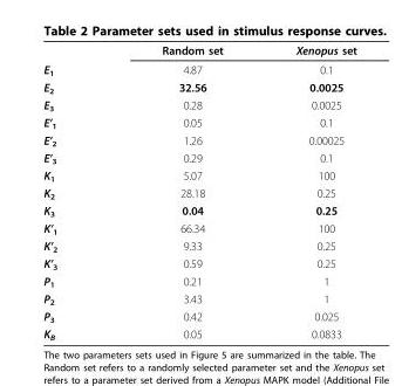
<table><thead><tr><td></td><td>Random set</td><td>Xenopus set</td></tr></thead><tbody><tr><td>E<sub>1</sub></td><td>4.87</td><td>0.1</td></tr><tr><td>E<sub>2</sub></td><td>32.56</td><td>0.0025</td></tr><tr><td>E<sub>3</sub></td><td>0.28</td><td>0.0025</td></tr><tr><td>E’<sub>1</sub></td><td>0.05</td><td>0.1</td></tr><tr><td>E’<sub>2</sub></td><td>1.26</td><td>0.00025</td></tr><tr><td>E’<sub>3</sub></td><td>0.29</td><td>0.1</td></tr><tr><td>K<sub>1</sub></td><td>5.07</td><td>100</td></tr><tr><td>K<sub>2</sub></td><td>28.18</td><td>0.25</td></tr><tr><td>K<sub>3</sub></td><td>0.04</td><td>0.25</td></tr><tr><td>K’<sub>1</sub></td><td>66.34</td><td>100</td></tr><tr><td>K’<sub>2</sub></td><td>9.33</td><td>0.25</td></tr><tr><td>K’<sub>3</sub></td><td>0.59</td><td>0.25</td></tr><tr><td>P<sub>1</sub></td><td>0.21</td><td>1</td></tr><tr><td>P<sub>2</sub></td><td>3.43</td><td>1</td></tr><tr><td>P<sub>3</sub></td><td>0.42</td><td>0.025</td></tr><tr><td>K<sub>B</sub></td><td>0.05</td><td>0.0833</td></tr></tbody></table>